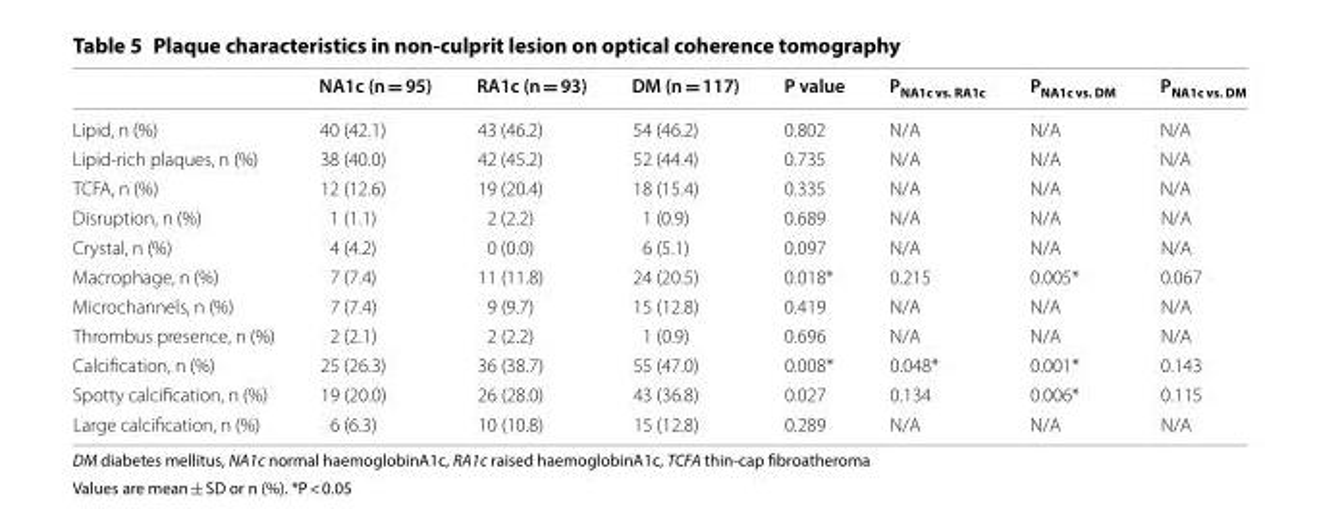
<table><thead><tr><td></td><td>NA1c (n = 95)</td><td>RA1c (n = 93)</td><td>DM (n = 117)</td><td>P value</td><td>P<sub>NA1c vs. RA1c</sub></td><td>P<sub>NA1c vs. DM</sub></td><td>P<sub>NA1c vs. DM</sub></td></tr></thead><tbody><tr><td>Lipid, n (%)</td><td>40 (42.1)</td><td>43 (46.2)</td><td>54 (46.2)</td><td>0.802</td><td>N/A</td><td>N/A</td><td>N/A</td></tr><tr><td>Lipid-rich plaques, n (%)</td><td>38 (40.0)</td><td>42 (45.2)</td><td>52 (44.4)</td><td>0.735</td><td>N/A</td><td>N/A</td><td>N/A</td></tr><tr><td>TCFA, n (%)</td><td>12 (12.6)</td><td>19 (20.4)</td><td>18 (15.4)</td><td>0.335</td><td>N/A</td><td>N/A</td><td>N/A</td></tr><tr><td>Disruption, n (%)</td><td>1 (1.1)</td><td>2 (2.2)</td><td>1 (0.9)</td><td>0.689</td><td>N/A</td><td>N/A</td><td>N/A</td></tr><tr><td>Crystal, n (%)</td><td>4 (4.2)</td><td>0 (0.0)</td><td>6 (5.1)</td><td>0.097</td><td>N/A</td><td>N/A</td><td>N/A</td></tr><tr><td>Macrophage, n (%)</td><td>7 (7.4)</td><td>11 (11.8)</td><td>24 (20.5)</td><td>0.018*</td><td>0.215</td><td>0.005*</td><td>0.067</td></tr><tr><td>Microchannels, n (%)</td><td>7 (7.4)</td><td>9 (9.7)</td><td>15 (12.8)</td><td>0.419</td><td>N/A</td><td>N/A</td><td>N/A</td></tr><tr><td>Thrombus presence, n (%)</td><td>2 (2.1)</td><td>2 (2.2)</td><td>1 (0.9)</td><td>0.696</td><td>N/A</td><td>N/A</td><td>N/A</td></tr><tr><td>Calcification, n (%)</td><td>25 (26.3)</td><td>36 (38.7)</td><td>55 (47.0)</td><td>0.008*</td><td>0.048*</td><td>0.001*</td><td>0.143</td></tr><tr><td>Spotty calcification, n (%)</td><td>19 (20.0)</td><td>26 (28.0)</td><td>43 (36.8)</td><td>0.027</td><td>0.134</td><td>0.006*</td><td>0.115</td></tr><tr><td>Large calcification, n (%)</td><td>6 (6.3)</td><td>10 (10.8)</td><td>15 (12.8)</td><td>0.289</td><td>N/A</td><td>N/A</td><td>N/A</td></tr></tbody></table>